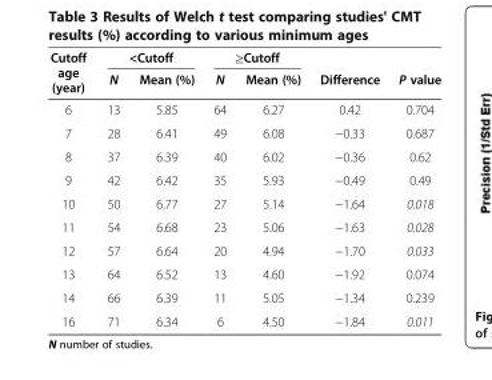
<table><thead><tr><td rowspan="2">Cutoff age (year)</td><td colspan="2">&lt;Cutoff</td><td colspan="2">≥Cutoff</td><td rowspan="2">Difference</td><td rowspan="2">P value</td></tr><tr><td>N</td><td>Mean (%)</td><td>N</td><td>Mean (%)</td></tr></thead><tbody><tr><td>6</td><td>13</td><td>5.85</td><td>64</td><td>6.27</td><td>0.42</td><td>0.704</td></tr><tr><td>7</td><td>28</td><td>6.41</td><td>49</td><td>6.08</td><td>−0.33</td><td>0.687</td></tr><tr><td>8</td><td>37</td><td>6.39</td><td>40</td><td>6.02</td><td>−0.36</td><td>0.62</td></tr><tr><td>9</td><td>42</td><td>6.42</td><td>35</td><td>5.93</td><td>−0.49</td><td>0.49</td></tr><tr><td>10</td><td>50</td><td>6.77</td><td>27</td><td>5.14</td><td>−1.64</td><td>0.018</td></tr><tr><td>11</td><td>54</td><td>6.68</td><td>23</td><td>5.06</td><td>−1.63</td><td>0.028</td></tr><tr><td>12</td><td>57</td><td>6.64</td><td>20</td><td>4.94</td><td>−1.70</td><td>0.033</td></tr><tr><td>13</td><td>64</td><td>6.52</td><td>13</td><td>4.60</td><td>−1.92</td><td>0.074</td></tr><tr><td>14</td><td>66</td><td>6.39</td><td>11</td><td>5.05</td><td>−1.34</td><td>0.239</td></tr><tr><td>16</td><td>71</td><td>6.34</td><td>6</td><td>4.50</td><td>−1.84</td><td>0.011</td></tr></tbody></table>